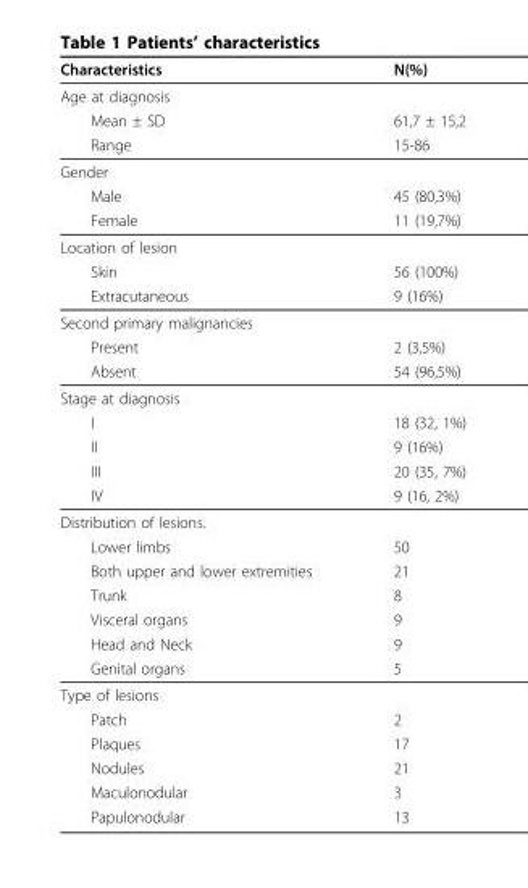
<table><thead><tr><td>Characteristics</td><td>N(%)</td></tr></thead><tbody><tr><td colspan="2">Age at diagnosis</td></tr><tr><td>Mean ± SD</td><td>61,7 ± 15,2</td></tr><tr><td>Range</td><td>15-86</td></tr><tr><td colspan="2">Gender</td></tr><tr><td>Male</td><td>45 (80,3%)</td></tr><tr><td>Female</td><td>11 (19,7%)</td></tr><tr><td colspan="2">Location of lesion</td></tr><tr><td>Skin</td><td>56 (100%)</td></tr><tr><td>Extracutaneous</td><td>9 (16%)</td></tr><tr><td colspan="2">Second primary malignancies</td></tr><tr><td>Present</td><td>2 (3,5%)</td></tr><tr><td>Absent</td><td>54 (96,5%)</td></tr><tr><td colspan="2">Stage at diagnosis</td></tr><tr><td>I</td><td>18 (32, 1%)</td></tr><tr><td>II</td><td>9 (16%)</td></tr><tr><td>III</td><td>20 (35, 7%)</td></tr><tr><td>IV</td><td>9 (16, 2%)</td></tr><tr><td colspan="2">Distribution of lesions.</td></tr><tr><td>Lower limbs</td><td>50</td></tr><tr><td>Both upper and lower extremities</td><td>21</td></tr><tr><td>Trunk</td><td>8</td></tr><tr><td>Visceral organs</td><td>9</td></tr><tr><td>Head and Neck</td><td>9</td></tr><tr><td>Genital organs</td><td>5</td></tr><tr><td colspan="2">Type of lesions</td></tr><tr><td>Patch</td><td>2</td></tr><tr><td>Plaques</td><td>17</td></tr><tr><td>Nodules</td><td>21</td></tr><tr><td>Maculonodular</td><td>3</td></tr><tr><td>Papulonodular</td><td>13</td></tr></tbody></table>